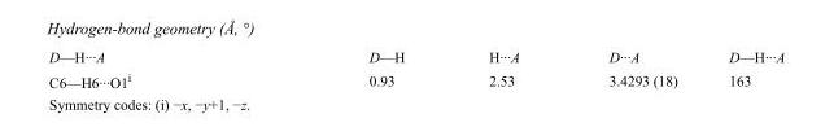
<table><tbody><tr><td>D—H···A</td><td>D—H</td><td>H···A</td><td>D···A</td><td>D—H···A</td></tr><tr><td>C6—H6···O1<sup>i</sup></td><td>0.93</td><td>2.53</td><td>3.4293 (18)</td><td>163</td></tr></tbody></table>